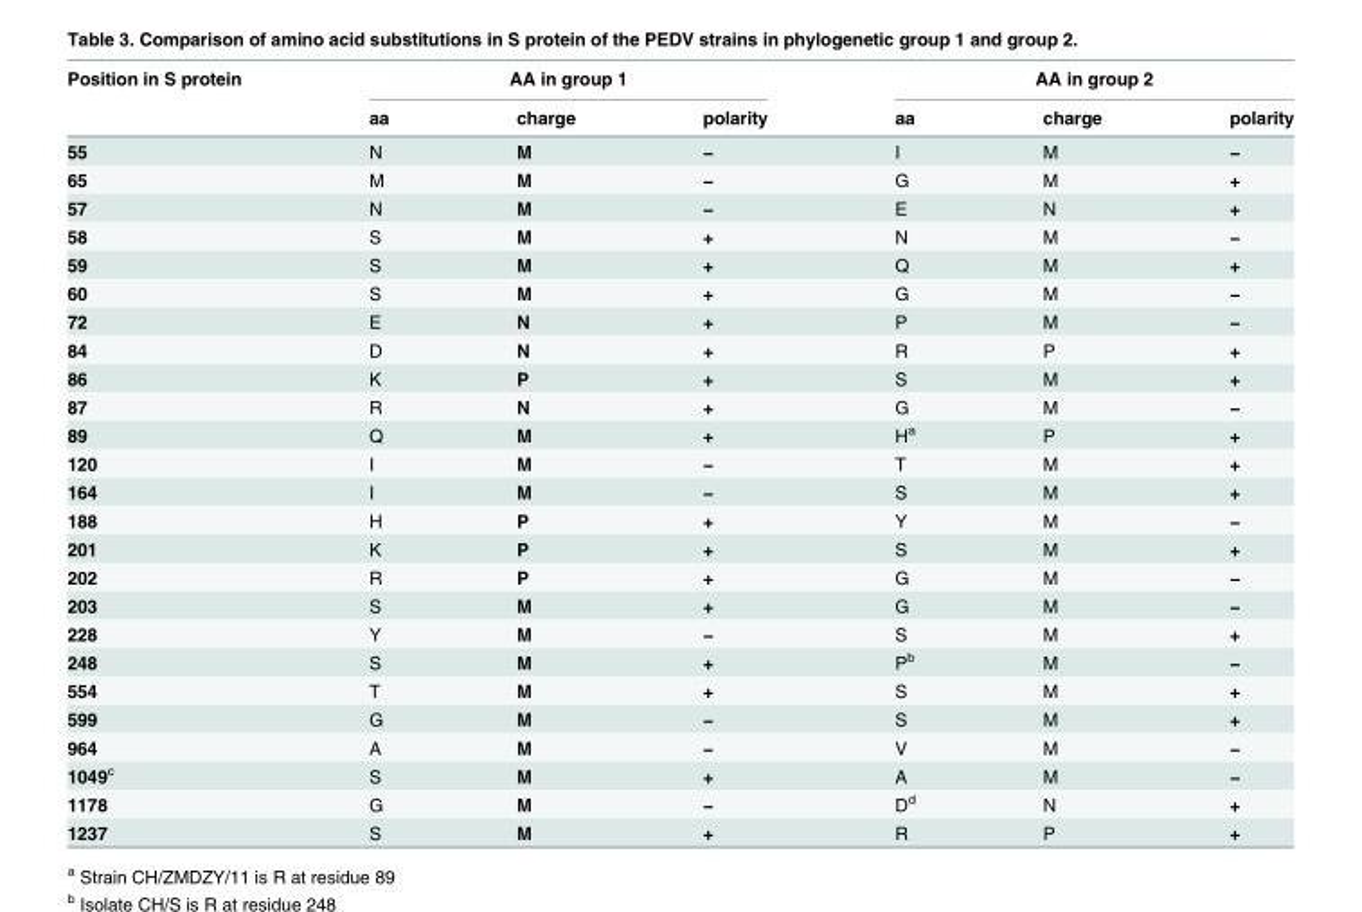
<table><thead><tr><td rowspan="2">Position in S protein</td><td colspan="3">AA in group 1</td><td colspan="3">AA in group 2</td></tr><tr><td>aa</td><td>charge</td><td>polarity</td><td>aa</td><td>charge</td><td>polarity</td></tr></thead><tbody><tr><td>55</td><td>N</td><td>M</td><td>−</td><td>I</td><td>M</td><td>−</td></tr><tr><td>65</td><td>M</td><td>M</td><td>−</td><td>G</td><td>M</td><td>+</td></tr><tr><td>57</td><td>N</td><td>M</td><td>−</td><td>E</td><td>N</td><td>+</td></tr><tr><td>58</td><td>S</td><td>M</td><td>+</td><td>N</td><td>M</td><td>−</td></tr><tr><td>59</td><td>S</td><td>M</td><td>+</td><td>Q</td><td>M</td><td>+</td></tr><tr><td>60</td><td>S</td><td>M</td><td>+</td><td>G</td><td>M</td><td>−</td></tr><tr><td>72</td><td>E</td><td>N</td><td>+</td><td>P</td><td>M</td><td>−</td></tr><tr><td>84</td><td>D</td><td>N</td><td>+</td><td>R</td><td>P</td><td>+</td></tr><tr><td>86</td><td>K</td><td>P</td><td>+</td><td>S</td><td>M</td><td>+</td></tr><tr><td>87</td><td>R</td><td>N</td><td>+</td><td>G</td><td>M</td><td>−</td></tr><tr><td>89</td><td>Q</td><td>M</td><td>+</td><td>H<sup>a</sup></td><td>P</td><td>+</td></tr><tr><td>120</td><td>I</td><td>M</td><td>−</td><td>T</td><td>M</td><td>+</td></tr><tr><td>164</td><td>I</td><td>M</td><td>−</td><td>S</td><td>M</td><td>+</td></tr><tr><td>188</td><td>H</td><td>P</td><td>+</td><td>Y</td><td>M</td><td>−</td></tr><tr><td>201</td><td>K</td><td>P</td><td>+</td><td>S</td><td>M</td><td>+</td></tr><tr><td>202</td><td>R</td><td>P</td><td>+</td><td>G</td><td>M</td><td>−</td></tr><tr><td>203</td><td>S</td><td>M</td><td>+</td><td>G</td><td>M</td><td>−</td></tr><tr><td>228</td><td>Y</td><td>M</td><td>−</td><td>S</td><td>M</td><td>+</td></tr><tr><td>248</td><td>S</td><td>M</td><td>+</td><td>P<sup>b</sup></td><td>M</td><td>−</td></tr><tr><td>554</td><td>T</td><td>M</td><td>+</td><td>S</td><td>M</td><td>+</td></tr><tr><td>599</td><td>G</td><td>M</td><td>−</td><td>S</td><td>M</td><td>+</td></tr><tr><td>964</td><td>A</td><td>M</td><td>−</td><td>V</td><td>M</td><td>−</td></tr><tr><td>1049<sup>c</sup></td><td>S</td><td>M</td><td>+</td><td>A</td><td>M</td><td>−</td></tr><tr><td>1178</td><td>G</td><td>M</td><td>−</td><td>D<sup>d</sup></td><td>N</td><td>+</td></tr><tr><td>1237</td><td>S</td><td>M</td><td>+</td><td>R</td><td>P</td><td>+</td></tr></tbody></table>